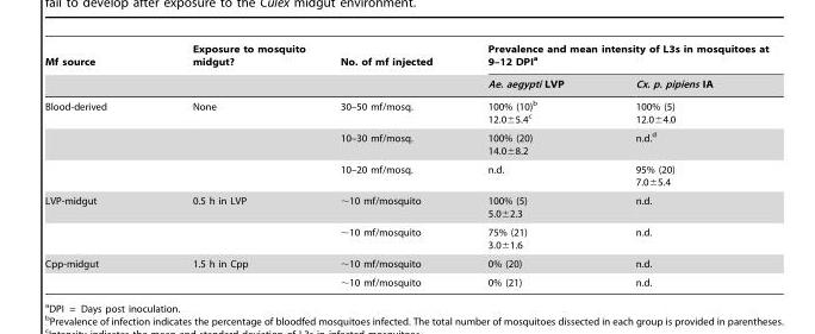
<table><thead><tr><td rowspan="2">Mf source</td><td rowspan="2">Exposure to mosquito midgut?</td><td rowspan="2">No. of mf injected</td><td colspan="2">Prevalence and mean intensity of L3s in mosquitoes at 9–12 DPI<sup>a</sup></td></tr><tr><td>Ae. aegypti LVP</td><td>Cx. p. pipiens IA</td></tr></thead><tbody><tr><td rowspan="3">Blood-derived</td><td>None</td><td>30–50 mf/mosq.</td><td>100% (10)<sup>b</sup> 12.0±5.4<sup>c</sup></td><td>100% (5) 12.0±4.0</td></tr><tr><td></td><td>10–30 mf/mosq.</td><td>100% (20) 14.0±8.2</td><td>n.d.<sup>d</sup></td></tr><tr><td></td><td>10–20 mf/mosq.</td><td>n.d.</td><td>95% (20) 7.0±5.4</td></tr><tr><td rowspan="2">LVP-midgut</td><td>0.5 h in LVP</td><td>∼10 mf/mosquito</td><td>100% (5) 5.0±2.3</td><td>n.d.</td></tr><tr><td></td><td>∼10 mf/mosquito</td><td>75% (21) 3.0±1.6</td><td>n.d.</td></tr><tr><td rowspan="2">Cpp-midgut</td><td>1.5 h in Cpp</td><td>∼10 mf/mosquito</td><td>0% (20)</td><td>n.d.</td></tr><tr><td></td><td>∼10 mf/mosquito</td><td>0% (21)</td><td>n.d.</td></tr></tbody></table>